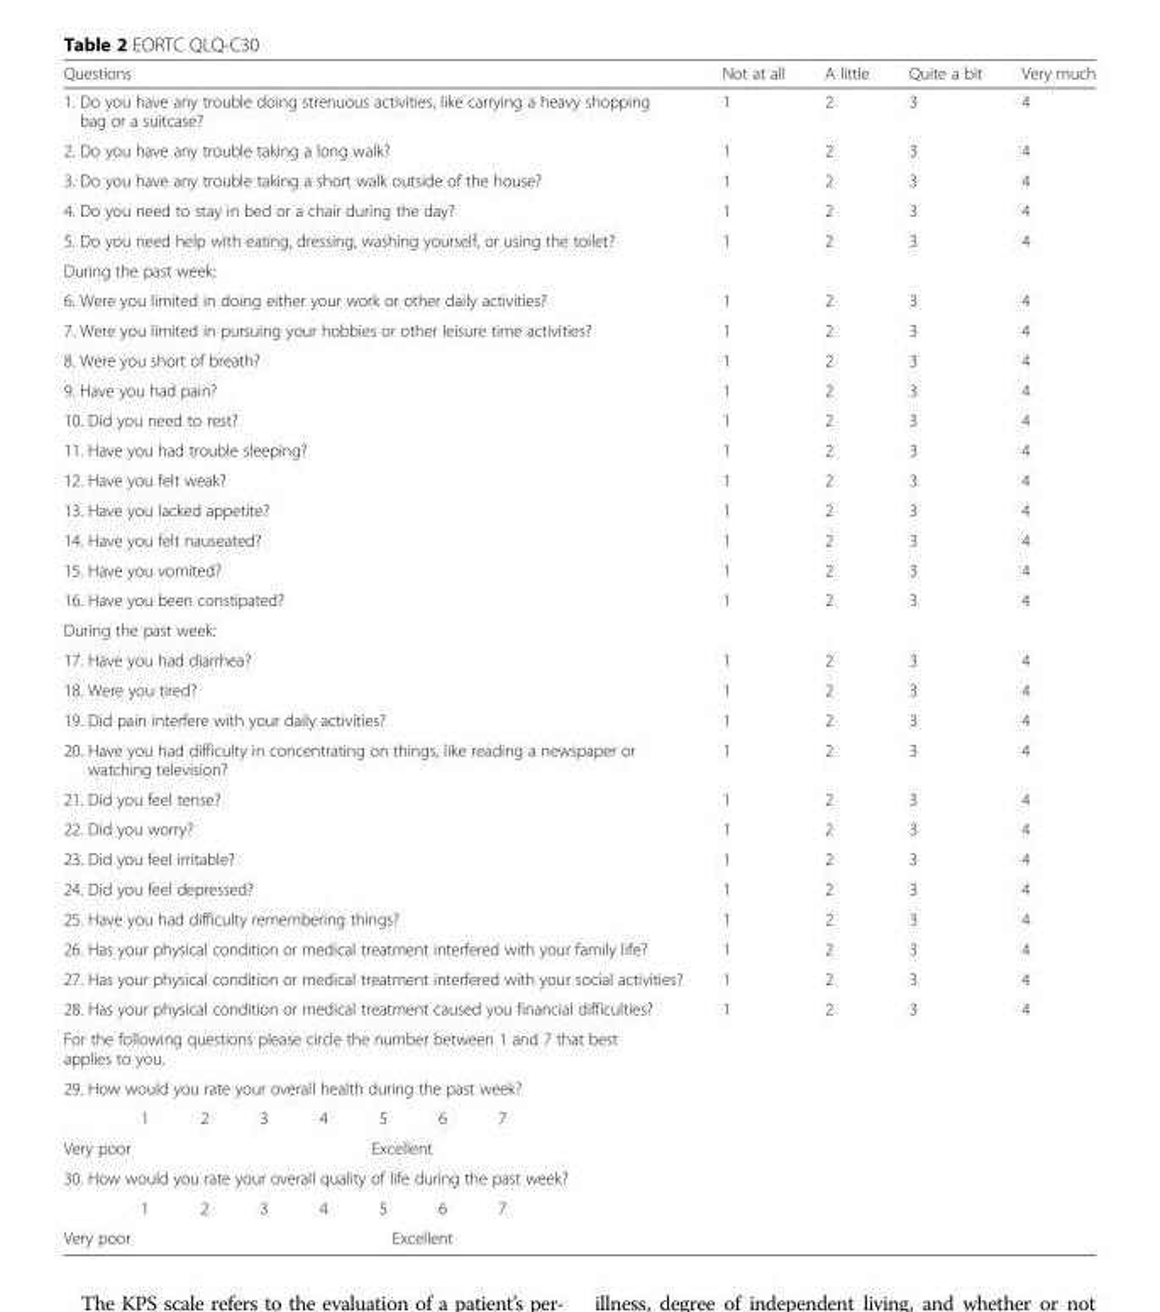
<table><thead><tr><td>Questions</td><td>Not at all</td><td>A little</td><td>Quite a bit</td><td>Very much</td></tr></thead><tbody><tr><td>1. Do you have any trouble doing strenuous activities, like carrying a heavy shopping bag or a suitcase?</td><td>1</td><td>2</td><td>3</td><td>4</td></tr><tr><td>2. Do you have any trouble taking a long walk?</td><td>1</td><td>2</td><td>3</td><td>4</td></tr><tr><td>3. Do you have any trouble taking a short walk outside of the house?</td><td>1</td><td>2</td><td>3</td><td>4</td></tr><tr><td>4. Do you need to stay in bed or a chair during the day?</td><td>1</td><td>2</td><td>3</td><td>4</td></tr><tr><td>5. Do you need help with eating, dressing, washing yourself, or using the toilet?</td><td>1</td><td>2</td><td>3</td><td>4</td></tr><tr><td colspan="5">During the past week:</td></tr><tr><td>6. Were you limited in doing either your work or other daily activities?</td><td>1</td><td>2</td><td>3</td><td>4</td></tr><tr><td>7. Were you limited in pursuing your hobbies or other leisure time activities?</td><td>1</td><td>2</td><td>3</td><td>4</td></tr><tr><td>8. Were you short of breath?</td><td>1</td><td>2</td><td>3</td><td>4</td></tr><tr><td>9. Have you had pain?</td><td>1</td><td>2</td><td>3</td><td>4</td></tr><tr><td>10. Did you need to rest?</td><td>1</td><td>2</td><td>3</td><td>4</td></tr><tr><td>11. Have you had trouble sleeping?</td><td>1</td><td>2</td><td>3</td><td>4</td></tr><tr><td>12. Have you felt weak?</td><td>1</td><td>2</td><td>3</td><td>4</td></tr><tr><td>13. Have you lacked appetite?</td><td>1</td><td>2</td><td>3</td><td>4</td></tr><tr><td>14. Have you felt nauseated?</td><td>1</td><td>2</td><td>3</td><td>4</td></tr><tr><td>15. Have you vomited?</td><td>1</td><td>2</td><td>3</td><td>4</td></tr><tr><td>16. Have you been constipated?</td><td>1</td><td>2</td><td>3</td><td>4</td></tr><tr><td colspan="5">During the past week:</td></tr><tr><td>17. Have you had diarrhea?</td><td>1</td><td>2</td><td>3</td><td>4</td></tr><tr><td>18. Were you tired?</td><td>1</td><td>2</td><td>3</td><td>4</td></tr><tr><td>19. Did pain interfere with your daily activities?</td><td>1</td><td>2</td><td>3</td><td>4</td></tr><tr><td>20. Have you had difficulty in concentrating on things, like reading a newspaper or watching television?</td><td>1</td><td>2</td><td>3</td><td>4</td></tr><tr><td>21. Did you feel tense?</td><td>1</td><td>2</td><td>3</td><td>4</td></tr><tr><td>22. Did you worry?</td><td>1</td><td>2</td><td>3</td><td>4</td></tr><tr><td>23. Did you feel irritable?</td><td>1</td><td>2</td><td>3</td><td>4</td></tr><tr><td>24. Did you feel depressed?</td><td>1</td><td>2</td><td>3</td><td>4</td></tr><tr><td>25. Have you had difficulty remembering things?</td><td>1</td><td>2</td><td>3</td><td>4</td></tr><tr><td>26. Has your physical condition or medical treatment interfered with your family life?</td><td>1</td><td>2</td><td>3</td><td>4</td></tr><tr><td>27. Has your physical condition or medical treatment interfered with your social activities?</td><td>1</td><td>2</td><td>3</td><td>4</td></tr><tr><td>28. Has your physical condition or medical treatment caused you financial difficulties?</td><td>1</td><td>2</td><td>3</td><td>4</td></tr><tr><td colspan="5">For the following questions please circle the number between 1 and 7 that best applies to you.</td></tr><tr><td colspan="5">29. How would you rate your overall health during the past week?</td></tr><tr><td colspan="5">1 2 3 4 5 6 7</td></tr><tr><td colspan="5">Very poor Excellent</td></tr><tr><td colspan="5">30. How would you rate your overall quality of life during the past week?</td></tr><tr><td colspan="5">1 2 3 4 5 6 7</td></tr><tr><td colspan="5">Very poor Excellent</td></tr></tbody></table>